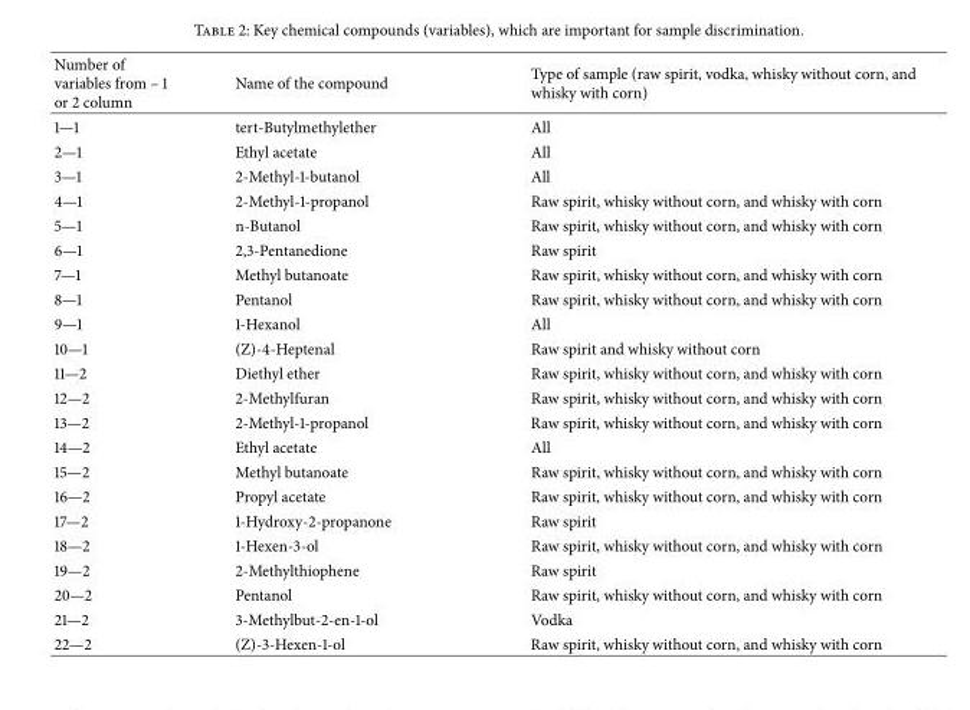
<table><thead><tr><td>Number of variables from – 1 or 2 column</td><td>Name of the compound</td><td>Type of sample (raw spirit, vodka, whisky without corn, and whisky with corn)</td></tr></thead><tbody><tr><td>1—1</td><td>tert-Butylmethylether</td><td>All</td></tr><tr><td>2—1</td><td>Ethyl acetate</td><td>All</td></tr><tr><td>3—1</td><td>2-Methyl-1-butanol</td><td>All</td></tr><tr><td>4—1</td><td>2-Methyl-1-propanol</td><td>Raw spirit, whisky without corn, and whisky with corn</td></tr><tr><td>5—1</td><td>n-Butanol</td><td>Raw spirit, whisky without corn, and whisky with corn</td></tr><tr><td>6—1</td><td>2,3-Pentanedione</td><td>Raw spirit</td></tr><tr><td>7—1</td><td>Methyl butanoate</td><td>Raw spirit, whisky without corn, and whisky with corn</td></tr><tr><td>8—1</td><td>Pentanol</td><td>Raw spirit, whisky without corn, and whisky with corn</td></tr><tr><td>9—1</td><td>1-Hexanol</td><td>All</td></tr><tr><td>10—1</td><td>(Z)-4-Heptenal</td><td>Raw spirit and whisky without corn</td></tr><tr><td>11—2</td><td>Diethyl ether</td><td>Raw spirit, whisky without corn, and whisky with corn</td></tr><tr><td>12—2</td><td>2-Methylfuran</td><td>Raw spirit, whisky without corn, and whisky with corn</td></tr><tr><td>13—2</td><td>2-Methyl-1-propanol</td><td>Raw spirit, whisky without corn, and whisky with corn</td></tr><tr><td>14—2</td><td>Ethyl acetate</td><td>All</td></tr><tr><td>15—2</td><td>Methyl butanoate</td><td>Raw spirit, whisky without corn, and whisky with corn</td></tr><tr><td>16—2</td><td>Propyl acetate</td><td>Raw spirit, whisky without corn, and whisky with corn</td></tr><tr><td>17—2</td><td>1-Hydroxy-2-propanone</td><td>Raw spirit</td></tr><tr><td>18—2</td><td>1-Hexen-3-ol</td><td>Raw spirit, whisky without corn, and whisky with corn</td></tr><tr><td>19—2</td><td>2-Methylthiophene</td><td>Raw spirit</td></tr><tr><td>20—2</td><td>Pentanol</td><td>Raw spirit, whisky without corn, and whisky with corn</td></tr><tr><td>21—2</td><td>3-Methylbut-2-en-1-ol</td><td>Vodka</td></tr><tr><td>22—2</td><td>(Z)-3-Hexen-1-ol</td><td>Raw spirit, whisky without corn, and whisky with corn</td></tr></tbody></table>